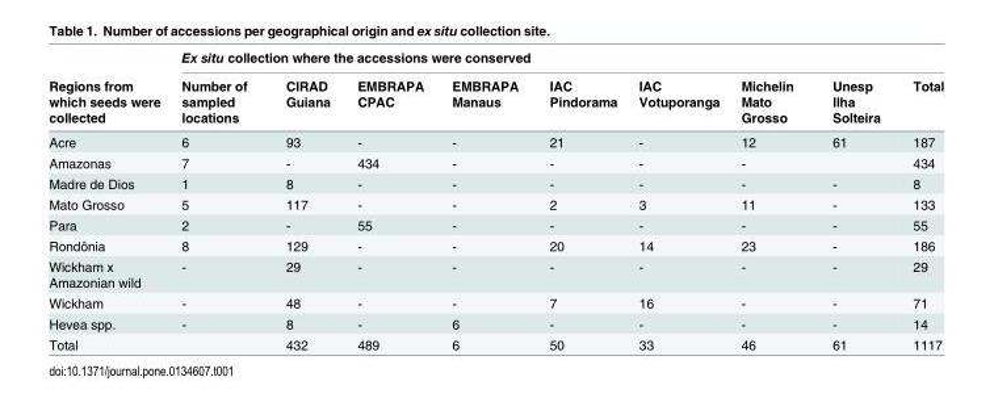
<table><thead><tr><td rowspan="2">Regions from which seeds were collected</td><td colspan="9">Ex situ collection where the accessions were conserved</td></tr><tr><td>Number of sampled locations</td><td>CIRAD Guiana</td><td>EMBRAPA CPAC</td><td>EMBRAPA Manaus</td><td>IAC Pindorama</td><td>IAC Votuporanga</td><td>Michelin Mato Grosso</td><td>Unesp Ilha Solteira</td><td>Total</td></tr></thead><tbody><tr><td>Acre</td><td>6</td><td>93</td><td>-</td><td>-</td><td>21</td><td>-</td><td>12</td><td>61</td><td>187</td></tr><tr><td>Amazonas</td><td>7</td><td>-</td><td>434</td><td>-</td><td>-</td><td>-</td><td>-</td><td></td><td>434</td></tr><tr><td>Madre de Dios</td><td>1</td><td>8</td><td>-</td><td>-</td><td>-</td><td>-</td><td>-</td><td>-</td><td>8</td></tr><tr><td>Mato Grosso</td><td>5</td><td>117</td><td>-</td><td>-</td><td>2</td><td>3</td><td>11</td><td>-</td><td>133</td></tr><tr><td>Para</td><td>2</td><td>-</td><td>55</td><td>-</td><td>-</td><td>-</td><td>-</td><td>-</td><td>55</td></tr><tr><td>Rondônia</td><td>8</td><td>129</td><td>-</td><td>-</td><td>20</td><td>14</td><td>23</td><td>-</td><td>186</td></tr><tr><td>Wickham x Amazonian wild</td><td>-</td><td>29</td><td>-</td><td>-</td><td>-</td><td>-</td><td>-</td><td>-</td><td>29</td></tr><tr><td>Wickham</td><td>-</td><td>48</td><td>-</td><td>-</td><td>7</td><td>16</td><td>-</td><td>-</td><td>71</td></tr><tr><td>Hevea spp.</td><td>-</td><td>8</td><td>-</td><td>6</td><td>-</td><td>-</td><td>-</td><td>-</td><td>14</td></tr><tr><td>Total</td><td></td><td>432</td><td>489</td><td>6</td><td>50</td><td>33</td><td>46</td><td>61</td><td>1117</td></tr></tbody></table>